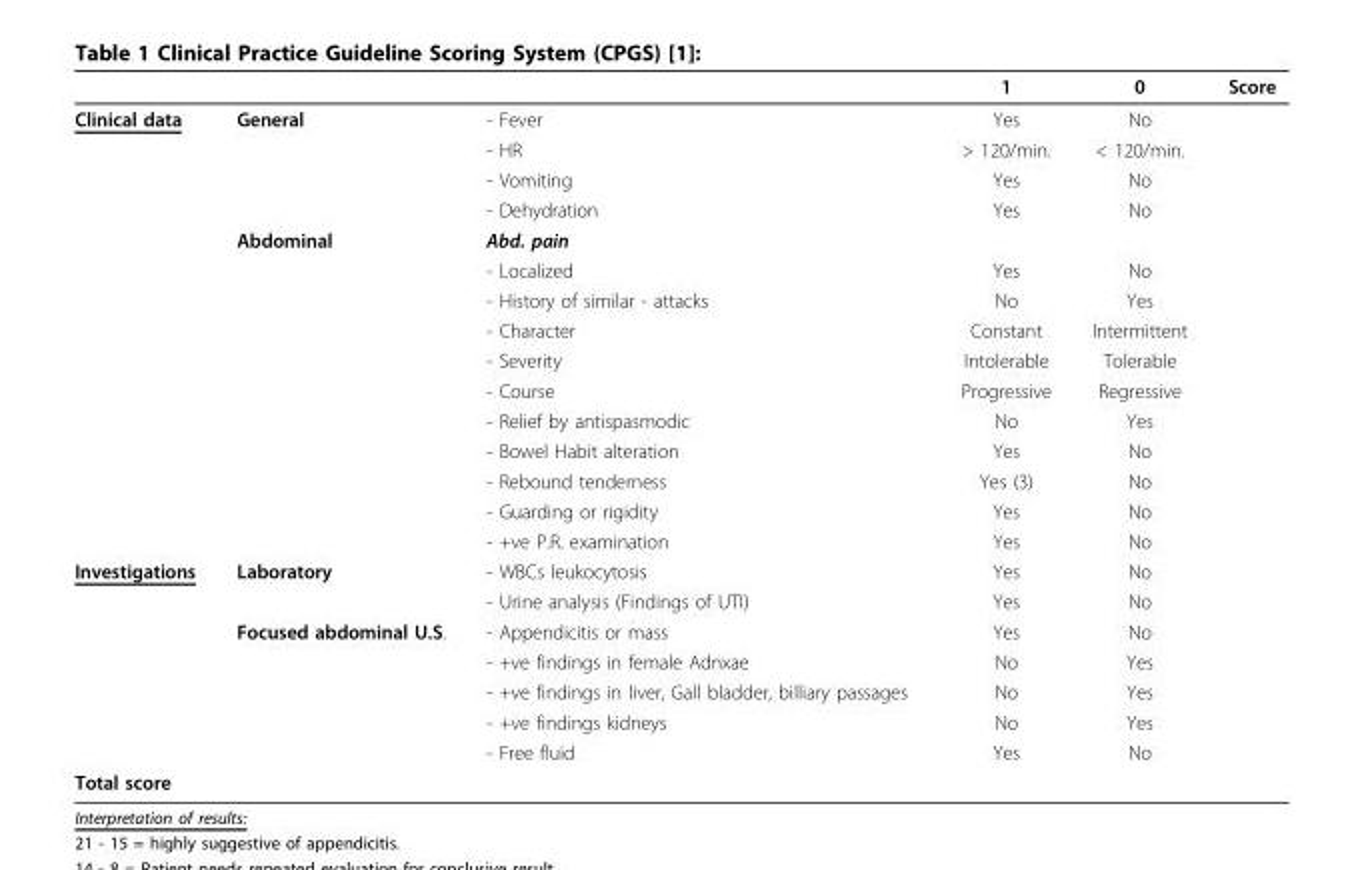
<table><thead><tr><td></td><td></td><td></td><td>1</td><td>0</td><td>Score</td></tr></thead><tbody><tr><td rowspan="15">Clinical data</td><td>General</td><td>- Fever</td><td>Yes</td><td>No</td><td></td></tr><tr><td></td><td>- HR</td><td>&gt; 120/min.</td><td>&lt; 120/min.</td><td></td></tr><tr><td></td><td>- Vomiting</td><td>Yes</td><td>No</td><td></td></tr><tr><td></td><td>- Dehydration</td><td>Yes</td><td>No</td><td></td></tr><tr><td>Abdominal</td><td>Abd. pain</td><td></td><td></td><td></td></tr><tr><td></td><td>- Localized</td><td>Yes</td><td>No</td><td></td></tr><tr><td></td><td>- History of similar - attacks</td><td>No</td><td>Yes</td><td></td></tr><tr><td></td><td>- Character</td><td>Constant</td><td>Intermittent</td><td></td></tr><tr><td></td><td>- Severity</td><td>Intolerable</td><td>Tolerable</td><td></td></tr><tr><td></td><td>- Course</td><td>Progressive</td><td>Regressive</td><td></td></tr><tr><td></td><td>- Relief by antispasmodic</td><td>No</td><td>Yes</td><td></td></tr><tr><td></td><td>- Bowel Habit alteration</td><td>Yes</td><td>No</td><td></td></tr><tr><td></td><td>- Rebound tenderness</td><td>Yes (3)</td><td>No</td><td></td></tr><tr><td></td><td>- Guarding or rigidity</td><td>Yes</td><td>No</td><td></td></tr><tr><td></td><td>- +ve P.R. examination</td><td>Yes</td><td>No</td><td></td></tr><tr><td rowspan="7">Investigations</td><td>Laboratory</td><td>- WBCs leukocytosis</td><td>Yes</td><td>No</td><td></td></tr><tr><td></td><td>- Urine analysis (Findings of UTI)</td><td>Yes</td><td>No</td><td></td></tr><tr><td>Focused abdominal U.S.</td><td>- Appendicitis or mass</td><td>Yes</td><td>No</td><td></td></tr><tr><td></td><td>- +ve findings in female Adnxae</td><td>No</td><td>Yes</td><td></td></tr><tr><td></td><td>- +ve findings in liver, Gall bladder, billiary passages</td><td>No</td><td>Yes</td><td></td></tr><tr><td></td><td>- +ve findings kidneys</td><td>No</td><td>Yes</td><td></td></tr><tr><td></td><td>- Free fluid</td><td>Yes</td><td>No</td><td></td></tr><tr><td colspan="5">Total score</td><td></td></tr></tbody></table>